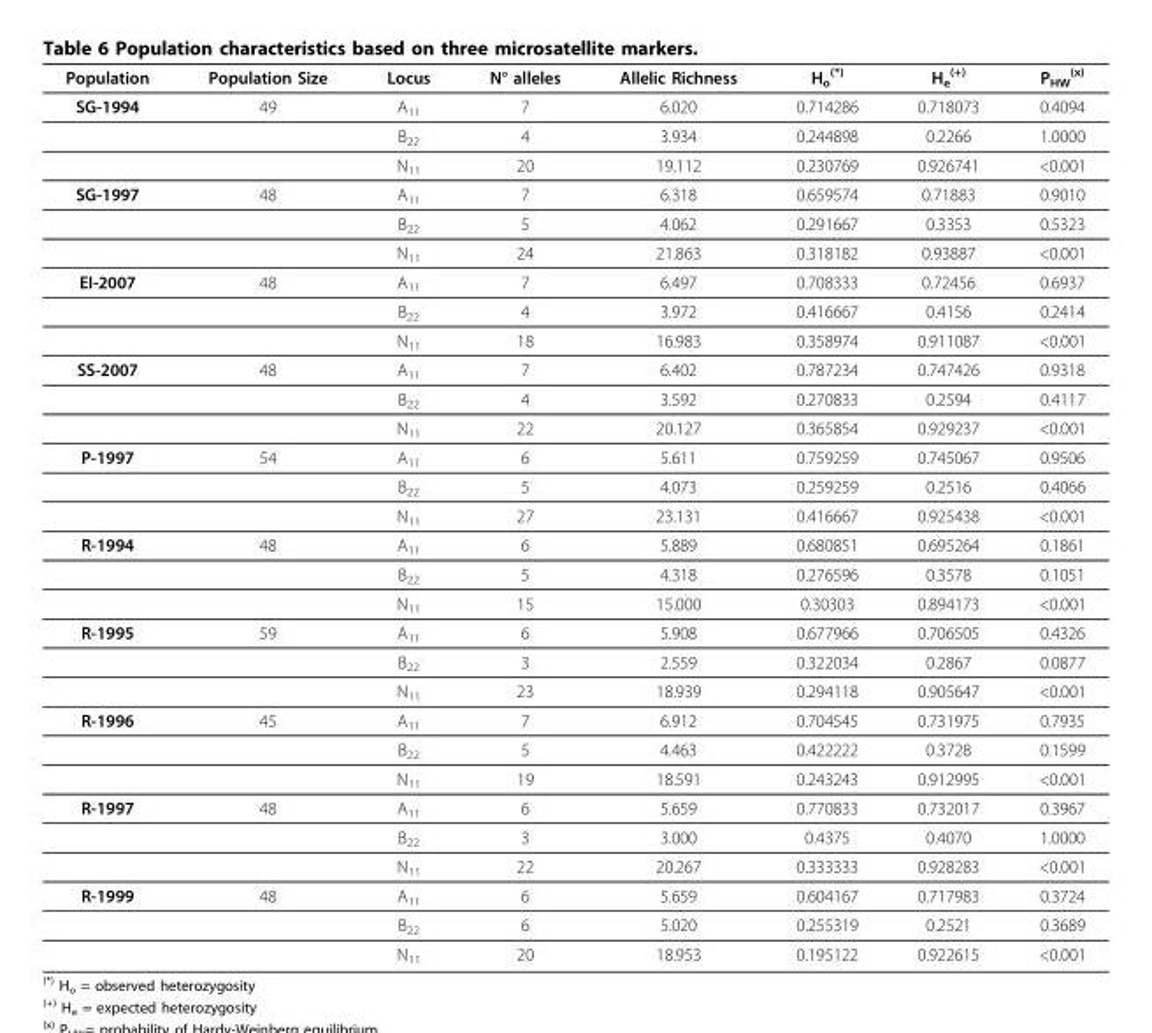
<table><thead><tr><td>Population</td><td>Population Size</td><td>Locus</td><td>N° alleles</td><td>Allelic Richness</td><td>H<sub>o</sub> <sup>(*)</sup></td><td>H<sub>e</sub> <sup>(+)</sup></td><td>P<sub>HW</sub> <sup>(x)</sup></td></tr></thead><tbody><tr><td rowspan="3">SG-1994</td><td>49</td><td>A<sub>11</sub></td><td>7</td><td>6.020</td><td>0.714286</td><td>0.718073</td><td>0.4094</td></tr><tr><td></td><td>B<sub>22</sub></td><td>4</td><td>3.934</td><td>0.244898</td><td>0.2266</td><td>1.0000</td></tr><tr><td></td><td>N<sub>11</sub></td><td>20</td><td>19.112</td><td>0.230769</td><td>0.926741</td><td>&lt;0.001</td></tr><tr><td rowspan="3">SG-1997</td><td>48</td><td>A<sub>11</sub></td><td>7</td><td>6.318</td><td>0.659574</td><td>0.71883</td><td>0.9010</td></tr><tr><td></td><td>B<sub>22</sub></td><td>5</td><td>4.062</td><td>0.291667</td><td>0.3353</td><td>0.5323</td></tr><tr><td></td><td>N<sub>11</sub></td><td>24</td><td>21.863</td><td>0.318182</td><td>0.93887</td><td>&lt;0.001</td></tr><tr><td rowspan="3">EI-2007</td><td>48</td><td>A<sub>11</sub></td><td>7</td><td>6.497</td><td>0.708333</td><td>0.72456</td><td>0.6937</td></tr><tr><td></td><td>B<sub>22</sub></td><td>4</td><td>3.972</td><td>0.416667</td><td>0.4156</td><td>0.2414</td></tr><tr><td></td><td>N<sub>11</sub></td><td>18</td><td>16.983</td><td>0.358974</td><td>0.911087</td><td>&lt;0.001</td></tr><tr><td rowspan="3">SS-2007</td><td>48</td><td>A<sub>11</sub></td><td>7</td><td>6.402</td><td>0.787234</td><td>0.747426</td><td>0.9318</td></tr><tr><td></td><td>B<sub>22</sub></td><td>4</td><td>3.592</td><td>0.270833</td><td>0.2594</td><td>0.4117</td></tr><tr><td></td><td>N<sub>11</sub></td><td>22</td><td>20.127</td><td>0.365854</td><td>0.929237</td><td>&lt;0.001</td></tr><tr><td rowspan="3">P-1997</td><td>54</td><td>A<sub>11</sub></td><td>6</td><td>5.611</td><td>0.759259</td><td>0.745067</td><td>0.9506</td></tr><tr><td></td><td>B<sub>22</sub></td><td>5</td><td>4.073</td><td>0.259259</td><td>0.2516</td><td>0.4066</td></tr><tr><td></td><td>N<sub>11</sub></td><td>27</td><td>23.131</td><td>0.416667</td><td>0.925438</td><td>&lt;0.001</td></tr><tr><td rowspan="3">R-1994</td><td>48</td><td>A<sub>11</sub></td><td>6</td><td>5.889</td><td>0.680851</td><td>0.695264</td><td>0.1861</td></tr><tr><td></td><td>B<sub>22</sub></td><td>5</td><td>4.318</td><td>0.276596</td><td>0.3578</td><td>0.1051</td></tr><tr><td></td><td>N<sub>11</sub></td><td>15</td><td>15.000</td><td>0.30303</td><td>0.894173</td><td>&lt;0.001</td></tr><tr><td rowspan="3">R-1995</td><td>59</td><td>A<sub>11</sub></td><td>6</td><td>5.908</td><td>0.677966</td><td>0.706505</td><td>0.4326</td></tr><tr><td></td><td>B<sub>22</sub></td><td>3</td><td>2.559</td><td>0.322034</td><td>0.2867</td><td>0.0877</td></tr><tr><td></td><td>N<sub>11</sub></td><td>23</td><td>18.939</td><td>0.294118</td><td>0.905647</td><td>&lt;0.001</td></tr><tr><td rowspan="3">R-1996</td><td>45</td><td>A<sub>11</sub></td><td>7</td><td>6.912</td><td>0.704545</td><td>0.731975</td><td>0.7935</td></tr><tr><td></td><td>B<sub>22</sub></td><td>5</td><td>4.463</td><td>0.422222</td><td>0.3728</td><td>0.1599</td></tr><tr><td></td><td>N<sub>11</sub></td><td>19</td><td>18.591</td><td>0.243243</td><td>0.912995</td><td>&lt;0.001</td></tr><tr><td rowspan="3">R-1997</td><td>48</td><td>A<sub>11</sub></td><td>6</td><td>5.659</td><td>0.770833</td><td>0.732017</td><td>0.3967</td></tr><tr><td></td><td>B<sub>22</sub></td><td>3</td><td>3.000</td><td>0.4375</td><td>0.4070</td><td>1.0000</td></tr><tr><td></td><td>N<sub>11</sub></td><td>22</td><td>20.267</td><td>0.333333</td><td>0.928283</td><td>&lt;0.001</td></tr><tr><td rowspan="3">R-1999</td><td>48</td><td>A<sub>11</sub></td><td>6</td><td>5.659</td><td>0.604167</td><td>0.717983</td><td>0.3724</td></tr><tr><td></td><td>B<sub>22</sub></td><td>6</td><td>5.020</td><td>0.255319</td><td>0.2521</td><td>0.3689</td></tr><tr><td></td><td>N<sub>11</sub></td><td>20</td><td>18.953</td><td>0.195122</td><td>0.922615</td><td>&lt;0.001</td></tr></tbody></table>